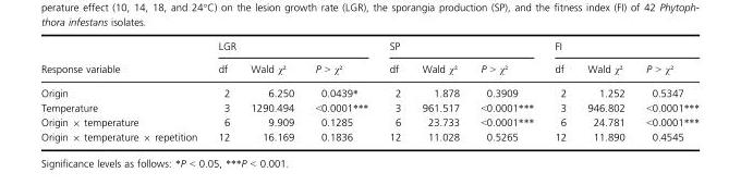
<table><thead><tr><td rowspan="2">Response variable</td><td colspan="3">LGR</td><td colspan="3">SP</td><td colspan="3">FI</td></tr><tr><td>df</td><td>Wald χ²</td><td>P &gt; χ²</td><td>df</td><td>Wald χ²</td><td>P &gt; χ²</td><td>df</td><td>Wald χ²</td><td>P &gt; χ²</td></tr></thead><tbody><tr><td>Origin</td><td>2</td><td>6.250</td><td>0.0439*</td><td>2</td><td>1.878</td><td>0.3909</td><td>2</td><td>1.252</td><td>0.5347</td></tr><tr><td>Temperature</td><td>3</td><td>1290.494</td><td>&lt;0.0001***</td><td>3</td><td>961.517</td><td>&lt;0.0001***</td><td>3</td><td>946.802</td><td>&lt;0.0001***</td></tr><tr><td>Origin × temperature</td><td>6</td><td>9.909</td><td>0.1285</td><td>6</td><td>23.733</td><td>&lt;0.0001***</td><td>6</td><td>24.781</td><td>&lt;0.0001***</td></tr><tr><td>Origin × temperature × repetition</td><td>12</td><td>16.169</td><td>0.1836</td><td>12</td><td>11.028</td><td>0.5265</td><td>12</td><td>11.890</td><td>0.4545</td></tr></tbody></table>